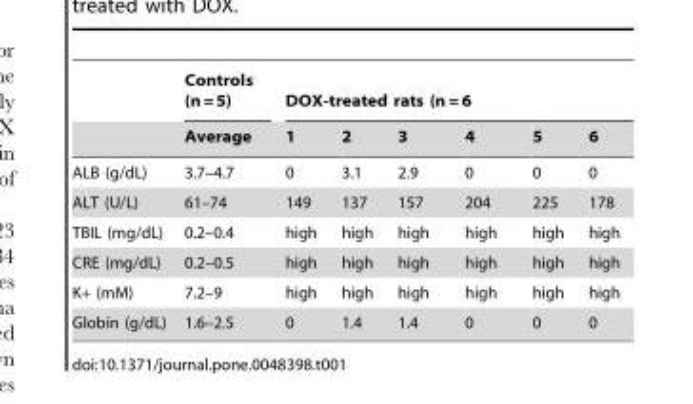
<table><thead><tr><td rowspan="2"></td><td rowspan="2">Controls (n = 5) Average</td><td colspan="6">DOX-treated rats (n = 6</td></tr><tr><td>1</td><td>2</td><td>3</td><td>4</td><td>5</td><td>6</td></tr></thead><tbody><tr><td>ALB (g/dL)</td><td>3.7–4.7</td><td>0</td><td>3.1</td><td>2.9</td><td>0</td><td>0</td><td>0</td></tr><tr><td>ALT (U/L)</td><td>61–74</td><td>149</td><td>137</td><td>157</td><td>204</td><td>225</td><td>178</td></tr><tr><td>TBIL (mg/dL)</td><td>0.2–0.4</td><td>high</td><td>high</td><td>high</td><td>high</td><td>high</td><td>high</td></tr><tr><td>CRE (mg/dL)</td><td>0.2–0.5</td><td>high</td><td>high</td><td>high</td><td>high</td><td>high</td><td>high</td></tr><tr><td>K+ (mM)</td><td>7.2–9</td><td>high</td><td>high</td><td>high</td><td>high</td><td>high</td><td>high</td></tr><tr><td>Globin (g/dL)</td><td>1.6–2.5</td><td>0</td><td>1.4</td><td>1.4</td><td>0</td><td>0</td><td>0</td></tr></tbody></table>